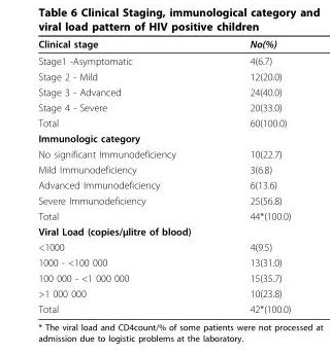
<table><thead><tr><td>Clinical stage</td><td>No(%)</td></tr></thead><tbody><tr><td>Stage1 -Asymptomatic</td><td>4(6.7)</td></tr><tr><td>Stage 2 - Mild</td><td>12(20.0)</td></tr><tr><td>Stage 3 - Advanced</td><td>24(40.0)</td></tr><tr><td>Stage 4 - Severe</td><td>20(33.0)</td></tr><tr><td>Total</td><td>60(100.0)</td></tr><tr><td colspan="2">Immunologic category</td></tr><tr><td>No significant Immunodeficiency</td><td>10(22.7)</td></tr><tr><td>Mild Immunodeficiency</td><td>3(6.8)</td></tr><tr><td>Advanced Immunodeficiency</td><td>6(13.6)</td></tr><tr><td>Severe Immunodeficiency</td><td>25(56.8)</td></tr><tr><td>Total</td><td>44*(100.0)</td></tr><tr><td colspan="2">Viral Load (copies/μlitre of blood)</td></tr><tr><td>&lt;1000</td><td>4(9.5)</td></tr><tr><td>1000 - &lt;100 000</td><td>13(31.0)</td></tr><tr><td>100 000 - &lt;1 000 000</td><td>15(35.7)</td></tr><tr><td>&gt;1 000 000</td><td>10(23.8)</td></tr><tr><td>Total</td><td>42*(100.0)</td></tr></tbody></table>